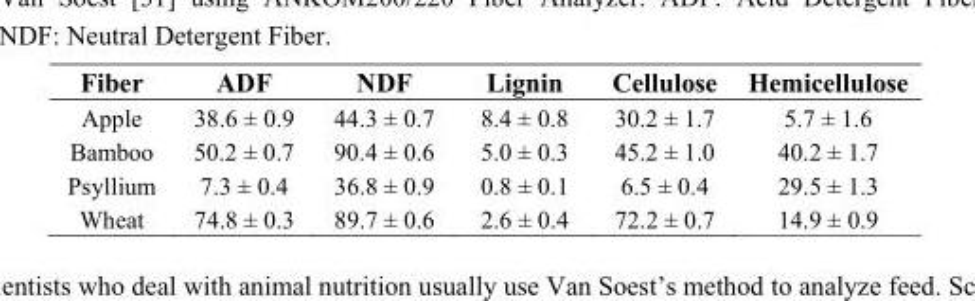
<table><thead><tr><td>Fiber</td><td>ADF</td><td>NDF</td><td>Lignin</td><td>Cellulose</td><td>Hemicellulose</td></tr></thead><tbody><tr><td>Apple</td><td>38.6 ± 0.9</td><td>44.3 ± 0.7</td><td>8.4 ± 0.8</td><td>30.2 ± 1.7</td><td>5.7 ± 1.6</td></tr><tr><td>Bamboo</td><td>50.2 ± 0.7</td><td>90.4 ± 0.6</td><td>5.0 ± 0.3</td><td>45.2 ± 1.0</td><td>40.2 ± 1.7</td></tr><tr><td>Psyllium</td><td>7.3 ± 0.4</td><td>36.8 ± 0.9</td><td>0.8 ± 0.1</td><td>6.5 ± 0.4</td><td>29.5 ± 1.3</td></tr><tr><td>Wheat</td><td>74.8 ± 0.3</td><td>89.7 ± 0.6</td><td>2.6 ± 0.4</td><td>72.2 ± 0.7</td><td>14.9 ± 0.9</td></tr></tbody></table>